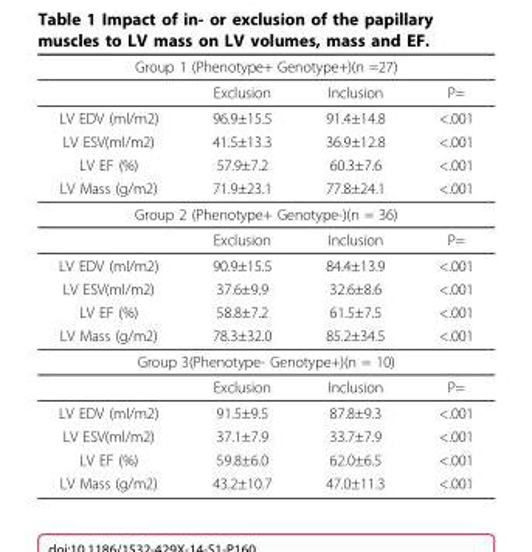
<table><thead><tr><td colspan="4">Group 1 (Phenotype+ Genotype+)(n =27)</td></tr><tr><td></td><td>Exclusion</td><td>Inclusion</td><td>P=</td></tr></thead><tbody><tr><td>LV EDV (ml/m2)</td><td>96.9±15.5</td><td>91.4±14.8</td><td>&lt;.001</td></tr><tr><td>LV ESV(ml/m2)</td><td>41.5±13.3</td><td>36.9±12.8</td><td>&lt;.001</td></tr><tr><td>LV EF (%)</td><td>57.9±7.2</td><td>60.3±7.6</td><td>&lt;.001</td></tr><tr><td>LV Mass (g/m2)</td><td>71.9±23.1</td><td>77.8±24.1</td><td>&lt;.001</td></tr><tr><td colspan="4">Group 2 (Phenotype+ Genotype-)(n = 36)</td></tr><tr><td></td><td>Exclusion</td><td>Inclusion</td><td>P=</td></tr><tr><td>LV EDV (ml/m2)</td><td>90.9±15.5</td><td>84.4±13.9</td><td>&lt;.001</td></tr><tr><td>LV ESV(ml/m2)</td><td>37.6±9.9</td><td>32.6±8.6</td><td>&lt;.001</td></tr><tr><td>LV EF (%)</td><td>58.8±7.2</td><td>61.5±7.5</td><td>&lt;.001</td></tr><tr><td>LV Mass (g/m2)</td><td>78.3±32.0</td><td>85.2±34.5</td><td>&lt;.001</td></tr><tr><td colspan="4">Group 3(Phenotype- Genotype+)(n = 10)</td></tr><tr><td></td><td>Exclusion</td><td>Inclusion</td><td>P=</td></tr><tr><td>LV EDV (ml/m2)</td><td>91.5±9.5</td><td>87.8±9.3</td><td>&lt;.001</td></tr><tr><td>LV ESV(ml/m2)</td><td>37.1±7.9</td><td>33.7±7.9</td><td>&lt;.001</td></tr><tr><td>LV EF (%)</td><td>59.8±6.0</td><td>62.0±6.5</td><td>&lt;.001</td></tr><tr><td>LV Mass (g/m2)</td><td>43.2±10.7</td><td>47.0±11.3</td><td>&lt;.001</td></tr></tbody></table>